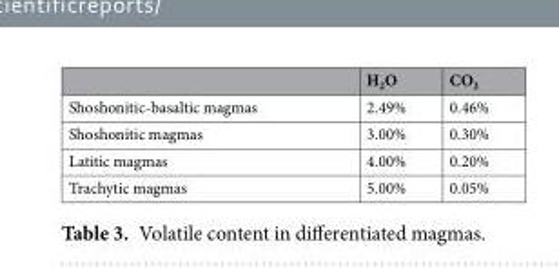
<table><thead><tr><td></td><td>H<sub>2</sub>O</td><td>CO<sub>2</sub></td></tr></thead><tbody><tr><td>Shoshonitic-basaltic magmas</td><td>2.49%</td><td>0.46%</td></tr><tr><td>Shoshonitic magmas</td><td>3.00%</td><td>0.30%</td></tr><tr><td>Latitic magmas</td><td>4.00%</td><td>0.20%</td></tr><tr><td>Trachytic magmas</td><td>5.00%</td><td>0.05%</td></tr></tbody></table>